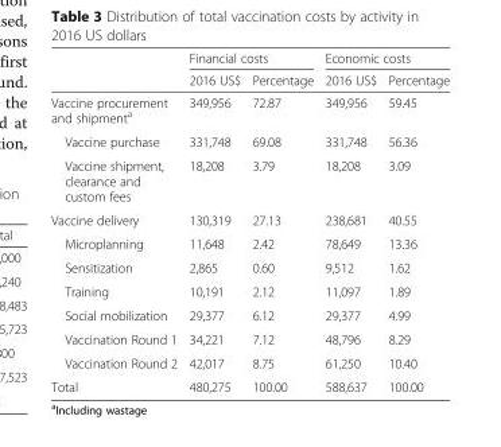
<table><thead><tr><td rowspan="2"></td><td colspan="2">Financial costs</td><td colspan="2">Economic costs</td></tr><tr><td>2016 US$</td><td>Percentage</td><td>2016 US$</td><td>Percentage</td></tr></thead><tbody><tr><td>Vaccine procurement and shipment<sup>a</sup></td><td>349,956</td><td>72.87</td><td>349,956</td><td>59.45</td></tr><tr><td>Vaccine purchase</td><td>331,748</td><td>69.08</td><td>331,748</td><td>56.36</td></tr><tr><td>Vaccine shipment, clearance and custom fees</td><td>18,208</td><td>3.79</td><td>18,208</td><td>3.09</td></tr><tr><td>Vaccine delivery</td><td>130,319</td><td>27.13</td><td>238,681</td><td>40.55</td></tr><tr><td>Microplanning</td><td>11,648</td><td>2.42</td><td>78,649</td><td>13.36</td></tr><tr><td>Sensitization</td><td>2,865</td><td>0.60</td><td>9,512</td><td>1.62</td></tr><tr><td>Training</td><td>10,191</td><td>2.12</td><td>11,097</td><td>1.89</td></tr><tr><td>Social mobilization</td><td>29,377</td><td>6.12</td><td>29,377</td><td>4.99</td></tr><tr><td>Vaccination Round 1</td><td>34,221</td><td>7.12</td><td>48,796</td><td>8.29</td></tr><tr><td>Vaccination Round 2</td><td>42,017</td><td>8.75</td><td>61,250</td><td>10.40</td></tr><tr><td>Total</td><td>480,275</td><td>100.00</td><td>588,637</td><td>100.00</td></tr></tbody></table>